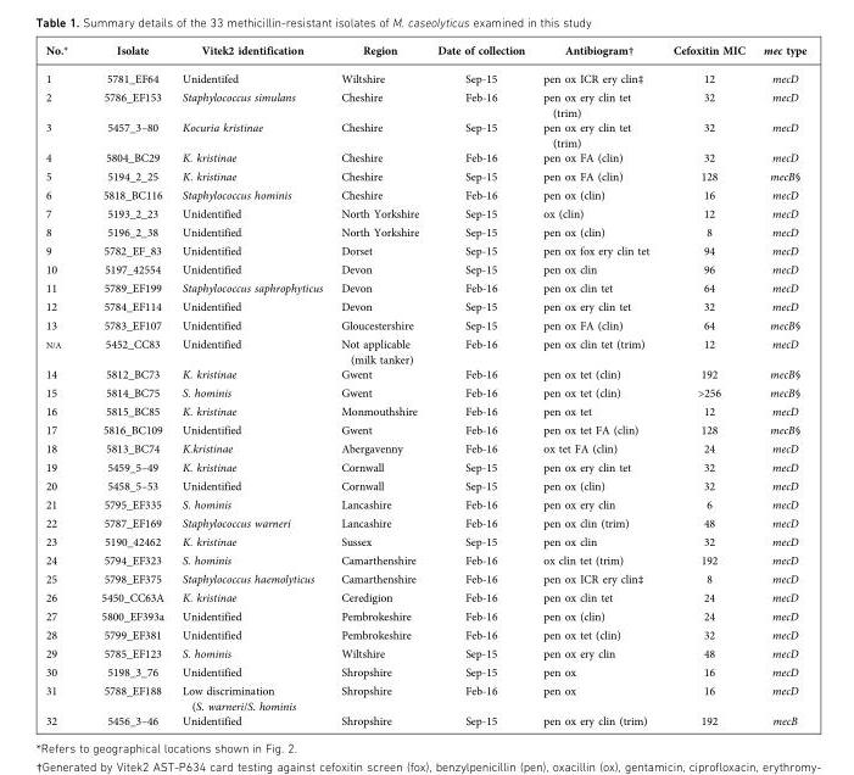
<table><thead><tr><td>No.*</td><td>Isolate</td><td>Vitek2 identification</td><td>Region</td><td>Date of collection</td><td>Antibiogram†</td><td>Cefoxitin MIC</td><td>mec type</td></tr></thead><tbody><tr><td>1</td><td>5781_EF64</td><td>Unidentifed</td><td>Wiltshire</td><td>Sep-15</td><td>pen ox ICR ery clin‡</td><td>12</td><td>mecD</td></tr><tr><td>2</td><td>5786_EF153</td><td>Staphylococcus simulans</td><td>Cheshire</td><td>Feb-16</td><td>pen ox ery clin tet (trim)</td><td>32</td><td>mecD</td></tr><tr><td>3</td><td>5457_3–80</td><td>Kocuria kristinae</td><td>Cheshire</td><td>Sep-15</td><td>pen ox ery clin tet (trim)</td><td>32</td><td>mecD</td></tr><tr><td>4</td><td>5804_BC29</td><td>K. kristinae</td><td>Cheshire</td><td>Feb-16</td><td>pen ox FA (clin)</td><td>32</td><td>mecD</td></tr><tr><td>5</td><td>5194_2_25</td><td>K. kristinae</td><td>Cheshire</td><td>Sep-15</td><td>pen ox FA (clin)</td><td>128</td><td>mecB§</td></tr><tr><td>6</td><td>5818_BC116</td><td>Staphylococcus hominis</td><td>Cheshire</td><td>Feb-16</td><td>pen ox (clin)</td><td>16</td><td>mecD</td></tr><tr><td>7</td><td>5193_2_23</td><td>Unidentified</td><td>North Yorkshire</td><td>Sep-15</td><td>ox (clin)</td><td>12</td><td>mecD</td></tr><tr><td>8</td><td>5196_2_38</td><td>Unidentified</td><td>North Yorkshire</td><td>Sep-15</td><td>pen ox (clin)</td><td>8</td><td>mecD</td></tr><tr><td>9</td><td>5782_EF_83</td><td>Unidentified</td><td>Dorset</td><td>Sep-15</td><td>pen ox fox ery clin tet</td><td>94</td><td>mecD</td></tr><tr><td>10</td><td>5197_42554</td><td>Unidentified</td><td>Devon</td><td>Sep-15</td><td>pen ox clin</td><td>96</td><td>mecD</td></tr><tr><td>11</td><td>5789_EF199</td><td>Staphylococcus saphrophyticus</td><td>Devon</td><td>Feb-16</td><td>pen ox clin tet</td><td>64</td><td>mecD</td></tr><tr><td>12</td><td>5784_EF114</td><td>Unidentified</td><td>Devon</td><td>Sep-15</td><td>pen ox ery clin tet</td><td>32</td><td>mecD</td></tr><tr><td>13</td><td>5783_EF107</td><td>Unidentified</td><td>Gloucestershire</td><td>Sep-15</td><td>pen ox FA (clin)</td><td>64</td><td>mecB§</td></tr><tr><td>N/A</td><td>5452_CC83</td><td>Unidentified</td><td>Not applicable (milk tanker)</td><td>Feb-16</td><td>pen ox clin tet (trim)</td><td>12</td><td>mecD</td></tr><tr><td>14</td><td>5812_BC73</td><td>K. kristinae</td><td>Gwent</td><td>Feb-16</td><td>pen ox tet (clin)</td><td>192</td><td>mecB§</td></tr><tr><td>15</td><td>5814_BC75</td><td>S. hominis</td><td>Gwent</td><td>Feb-16</td><td>pen ox tet (clin)</td><td>&gt;256</td><td>mecB§</td></tr><tr><td>16</td><td>5815_BC85</td><td>K. kristinae</td><td>Monmouthshire</td><td>Feb-16</td><td>pen ox tet</td><td>12</td><td>mecD</td></tr><tr><td>17</td><td>5816_BC109</td><td>Unidentified</td><td>Gwent</td><td>Feb-16</td><td>pen ox tet FA (clin)</td><td>128</td><td>mecB§</td></tr><tr><td>18</td><td>5813_BC74</td><td>K.kristinae</td><td>Abergavenny</td><td>Feb-16</td><td>ox tet FA (clin)</td><td>24</td><td>mecD</td></tr><tr><td>19</td><td>5459_5–49</td><td>K. kristinae</td><td>Cornwall</td><td>Sep-15</td><td>pen ox ery clin tet</td><td>32</td><td>mecD</td></tr><tr><td>20</td><td>5458_5–53</td><td>Unidentified</td><td>Cornwall</td><td>Sep-15</td><td>pen ox (clin)</td><td>32</td><td>mecD</td></tr><tr><td>21</td><td>5795_EF335</td><td>S. hominis</td><td>Lancashire</td><td>Feb-16</td><td>pen ox ery clin</td><td>6</td><td>mecD</td></tr><tr><td>22</td><td>5787_EF169</td><td>Staphylococcus warneri</td><td>Lancashire</td><td>Feb-16</td><td>pen ox clin (trim)</td><td>48</td><td>mecD</td></tr><tr><td>23</td><td>5190_42462</td><td>K. kristinae</td><td>Sussex</td><td>Sep-15</td><td>pen ox clin</td><td>32</td><td>mecD</td></tr><tr><td>24</td><td>5794_EF323</td><td>S. hominis</td><td>Camarthenshire</td><td>Feb-16</td><td>ox clin tet (trim)</td><td>192</td><td>mecD</td></tr><tr><td>25</td><td>5798_EF375</td><td>Staphylococcus haemolyticus</td><td>Camarthenshire</td><td>Feb-16</td><td>pen ox ICR ery clin‡</td><td>8</td><td>mecD</td></tr><tr><td>26</td><td>5450_CC63A</td><td>K. kristinae</td><td>Ceredigion</td><td>Feb-16</td><td>pen ox clin tet</td><td>24</td><td>mecD</td></tr><tr><td>27</td><td>5800_EF393a</td><td>Unidentified</td><td>Pembrokeshire</td><td>Feb-16</td><td>pen ox (clin)</td><td>24</td><td>mecD</td></tr><tr><td>28</td><td>5799_EF381</td><td>Unidentified</td><td>Pembrokeshire</td><td>Feb-16</td><td>pen ox tet (clin)</td><td>32</td><td>mecD</td></tr><tr><td>29</td><td>5785_EF123</td><td>S. hominis</td><td>Wiltshire</td><td>Sep-15</td><td>pen ox ery clin</td><td>48</td><td>mecD</td></tr><tr><td>30</td><td>5198_3_76</td><td>Unidentified</td><td>Shropshire</td><td>Sep-15</td><td>pen ox</td><td>16</td><td>mecD</td></tr><tr><td>31</td><td>5788_EF188</td><td>Low discrimination (S. warneri/S. hominis</td><td>Shropshire</td><td>Feb-16</td><td>pen ox</td><td>16</td><td>mecD</td></tr><tr><td>32</td><td>5456_3–46</td><td>Unidentified</td><td>Shropshire</td><td>Sep-15</td><td>pen ox ery clin (trim)</td><td>192</td><td>mecB</td></tr></tbody></table>